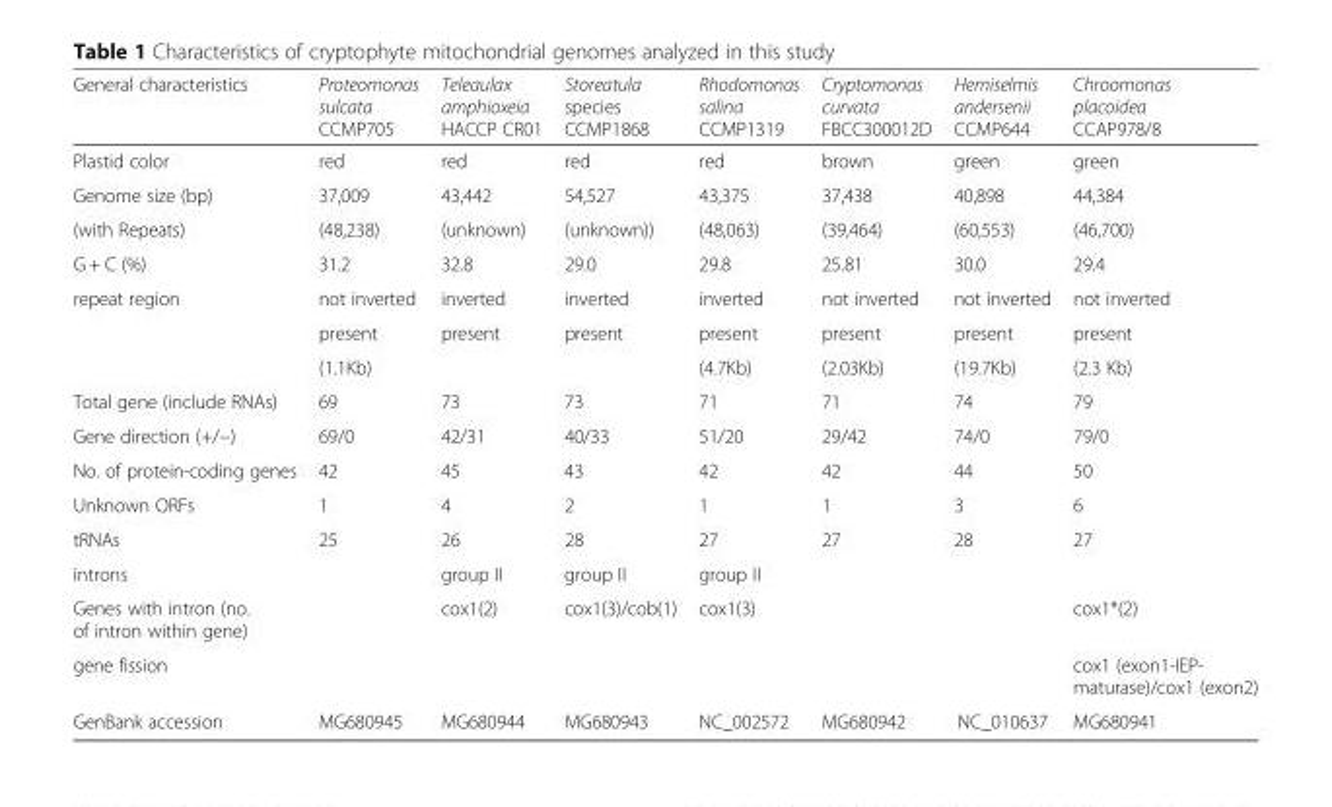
<table><thead><tr><td>General characteristics</td><td>Proteomonas sulcata CCMP705</td><td>Teleaulax amphioxeia HACCP CR01</td><td>Storeatula species CCMP1868</td><td>Rhodomonas salina CCMP1319</td><td>Cryptomonas curvata FBCC300012D</td><td>Hemiselmis andersenii CCMP644</td><td>Chroomonas placoidea CCAP978/8</td></tr></thead><tbody><tr><td>Plastid color</td><td>red</td><td>red</td><td>red</td><td>red</td><td>brown</td><td>green</td><td>green</td></tr><tr><td>Genome size (bp)</td><td>37,009</td><td>43,442</td><td>54,527</td><td>43,375</td><td>37,438</td><td>40,898</td><td>44,384</td></tr><tr><td>(with Repeats)</td><td>(48,238)</td><td>(unknown)</td><td>(unknown))</td><td>(48,063)</td><td>(39,464)</td><td>(60,553)</td><td>(46,700)</td></tr><tr><td>G + C (%)</td><td>31.2</td><td>32.8</td><td>29.0</td><td>29.8</td><td>25.81</td><td>30.0</td><td>29.4</td></tr><tr><td rowspan="3">repeat region</td><td>not inverted</td><td>inverted</td><td>inverted</td><td>inverted</td><td>not inverted</td><td>not inverted</td><td>not inverted</td></tr><tr><td>present</td><td>present</td><td>present</td><td>present</td><td>present</td><td>present</td><td>present</td></tr><tr><td>(1.1Kb)</td><td></td><td></td><td>(4.7Kb)</td><td>(2.03Kb)</td><td>(19.7Kb)</td><td>(2.3 Kb)</td></tr><tr><td>Total gene (include RNAs)</td><td>69</td><td>73</td><td>73</td><td>71</td><td>71</td><td>74</td><td>79</td></tr><tr><td>Gene direction (+/−)</td><td>69/0</td><td>42/31</td><td>40/33</td><td>51/20</td><td>29/42</td><td>74/0</td><td>79/0</td></tr><tr><td>No. of protein-coding genes</td><td>42</td><td>45</td><td>43</td><td>42</td><td>42</td><td>44</td><td>50</td></tr><tr><td>Unknown ORFs</td><td>1</td><td>4</td><td>2</td><td>1</td><td>1</td><td>3</td><td>6</td></tr><tr><td>tRNAs</td><td>25</td><td>26</td><td>28</td><td>27</td><td>27</td><td>28</td><td>27</td></tr><tr><td>introns</td><td></td><td>group II</td><td>group II</td><td>group II</td><td></td><td></td><td></td></tr><tr><td>Genes with intron (no. of intron within gene)</td><td></td><td>cox1(2)</td><td>cox1(3)/cob(1)</td><td>cox1(3)</td><td></td><td></td><td>cox1*(2)</td></tr><tr><td>gene fission</td><td></td><td></td><td></td><td></td><td></td><td></td><td>cox1 (exon1-IEP- maturase)/cox1 (exon2)</td></tr><tr><td>GenBank accession</td><td>MG680945</td><td>MG680944</td><td>MG680943</td><td>NC_002572</td><td>MG680942</td><td>NC_010637</td><td>MG680941</td></tr></tbody></table>